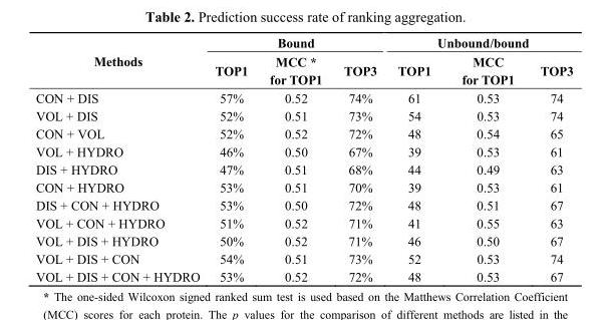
<table><thead><tr><td rowspan="2">Methods</td><td colspan="3">Bound</td><td colspan="3">Unbound/bound</td></tr><tr><td>TOP1</td><td>MCC * for TOP1</td><td>TOP3</td><td>TOP1</td><td>MCC for TOP1</td><td>TOP3</td></tr></thead><tbody><tr><td>CON + DIS</td><td>57%</td><td>0.52</td><td>74%</td><td>61</td><td>0.53</td><td>74</td></tr><tr><td>VOL + DIS</td><td>52%</td><td>0.51</td><td>73%</td><td>54</td><td>0.53</td><td>74</td></tr><tr><td>CON + VOL</td><td>52%</td><td>0.52</td><td>72%</td><td>48</td><td>0.54</td><td>65</td></tr><tr><td>VOL + HYDRO</td><td>46%</td><td>0.50</td><td>67%</td><td>39</td><td>0.53</td><td>61</td></tr><tr><td>DIS + HYDRO</td><td>47%</td><td>0.51</td><td>68%</td><td>44</td><td>0.49</td><td>63</td></tr><tr><td>CON + HYDRO</td><td>53%</td><td>0.51</td><td>70%</td><td>39</td><td>0.53</td><td>61</td></tr><tr><td>DIS + CON + HYDRO</td><td>53%</td><td>0.50</td><td>72%</td><td>48</td><td>0.51</td><td>67</td></tr><tr><td>VOL + CON + HYDRO</td><td>51%</td><td>0.52</td><td>71%</td><td>41</td><td>0.55</td><td>63</td></tr><tr><td>VOL + DIS + HYDRO</td><td>50%</td><td>0.52</td><td>71%</td><td>46</td><td>0.50</td><td>67</td></tr><tr><td>VOL + DIS + CON</td><td>54%</td><td>0.51</td><td>73%</td><td>52</td><td>0.53</td><td>74</td></tr><tr><td>VOL + DIS + CON + HYDRO</td><td>53%</td><td>0.52</td><td>72%</td><td>48</td><td>0.53</td><td>67</td></tr></tbody></table>